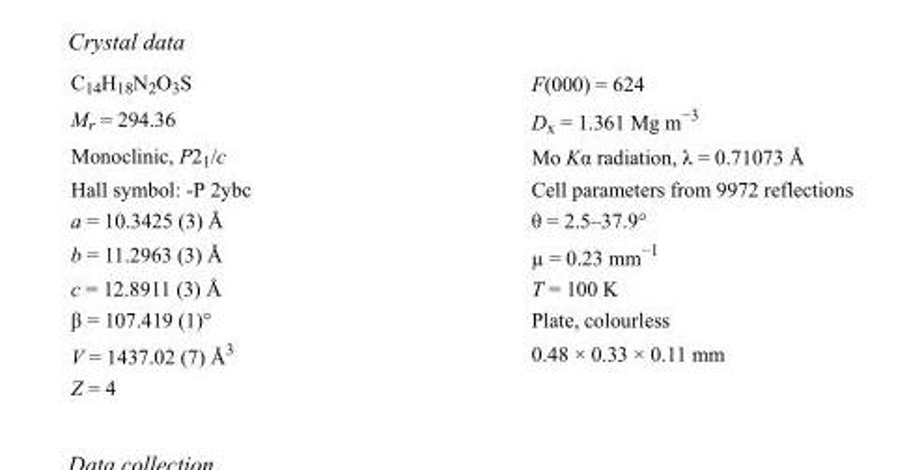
<table><tbody><tr><td>C<sub>14</sub>H<sub>18</sub>N<sub>2</sub>O<sub>3</sub>S</td><td>F(000) = 624</td></tr><tr><td>M<sub>r</sub> = 294.36</td><td>D<sub>x</sub> = 1.361 Mg m<sup>−3</sup></td></tr><tr><td>Monoclinic, P2<sub>1</sub>/c</td><td>Mo Kα radiation, λ = 0.71073 Å</td></tr><tr><td>Hall symbol: -P 2ybc</td><td>Cell parameters from 9972 reflections</td></tr><tr><td>a = 10.3425 (3) Å</td><td>θ = 2.5–37.9°</td></tr><tr><td>b = 11.2963 (3) Å</td><td>µ = 0.23 mm<sup>−1</sup></td></tr><tr><td>c = 12.8911 (3) Å</td><td>T = 100 K</td></tr><tr><td>β = 107.419 (1)°</td><td>Plate, colourless</td></tr><tr><td>V = 1437.02 (7) Å<sup>3</sup></td><td>0.48 × 0.33 × 0.11 mm</td></tr><tr><td>Z = 4</td><td></td></tr></tbody></table>